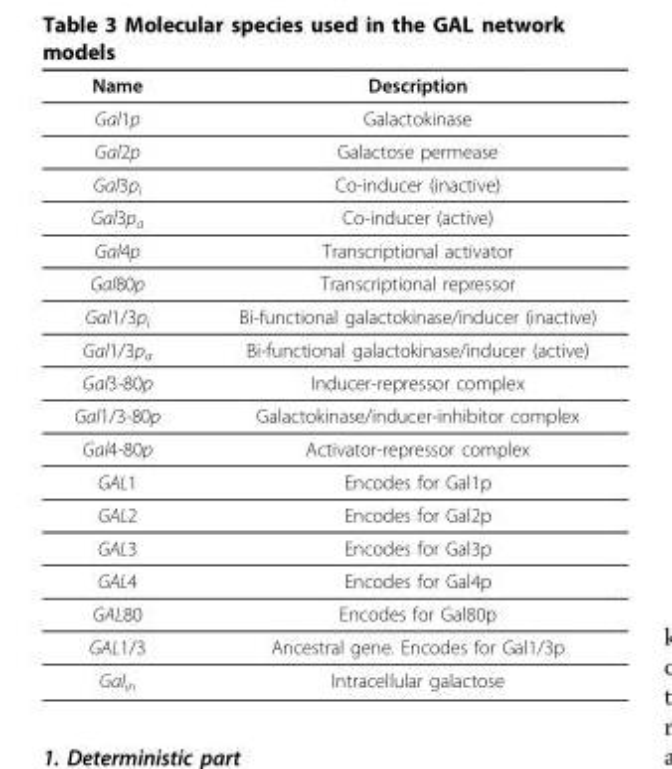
<table><thead><tr><td>Name</td><td>Description</td></tr></thead><tbody><tr><td>Gal1p</td><td>Galactokinase</td></tr><tr><td>Gal2p</td><td>Galactose permease</td></tr><tr><td>Gal3pi</td><td>Co-inducer (inactive)</td></tr><tr><td>Gal3pa</td><td>Co-inducer (active)</td></tr><tr><td>Gal4p</td><td>Transcriptional activator</td></tr><tr><td>Gal80p</td><td>Transcriptional repressor</td></tr><tr><td>Gal1/3pi</td><td>Bi-functional galactokinase/inducer (inactive)</td></tr><tr><td>Gal1/3pa</td><td>Bi-functional galactokinase/inducer (active)</td></tr><tr><td>Gal3-80p</td><td>Inducer-repressor complex</td></tr><tr><td>Gal1/3-80p</td><td>Galactokinase/inducer-inhibitor complex</td></tr><tr><td>Gal4-80p</td><td>Activator-repressor complex</td></tr><tr><td>GAL1</td><td>Encodes for Gal1p</td></tr><tr><td>GAL2</td><td>Encodes for Gal2p</td></tr><tr><td>GAL3</td><td>Encodes for Gal3p</td></tr><tr><td>GAL4</td><td>Encodes for Gal4p</td></tr><tr><td>GAL80</td><td>Encodes for Gal80p</td></tr><tr><td>GAL1/3</td><td>Ancestral gene. Encodes for Gal1/3p</td></tr><tr><td>Galin</td><td>Intracellular galactose</td></tr></tbody></table>